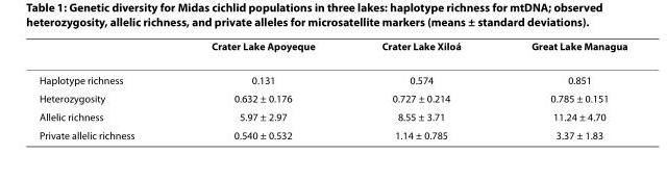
<table><thead><tr><td></td><td>Crater Lake Apoyeque</td><td>Crater Lake Xiloá</td><td>Great Lake Managua</td></tr></thead><tbody><tr><td>Haplotype richness</td><td>0.131</td><td>0.574</td><td>0.851</td></tr><tr><td>Heterozygosity</td><td>0.632 ± 0.176</td><td>0.727 ± 0.214</td><td>0.785 ± 0.151</td></tr><tr><td>Allelic richness</td><td>5.97 ± 2.97</td><td>8.55 ± 3.71</td><td>11.24 ± 4.70</td></tr><tr><td>Private allelic richness</td><td>0.540 ± 0.532</td><td>1.14 ± 0.785</td><td>3.37 ± 1.83</td></tr></tbody></table>